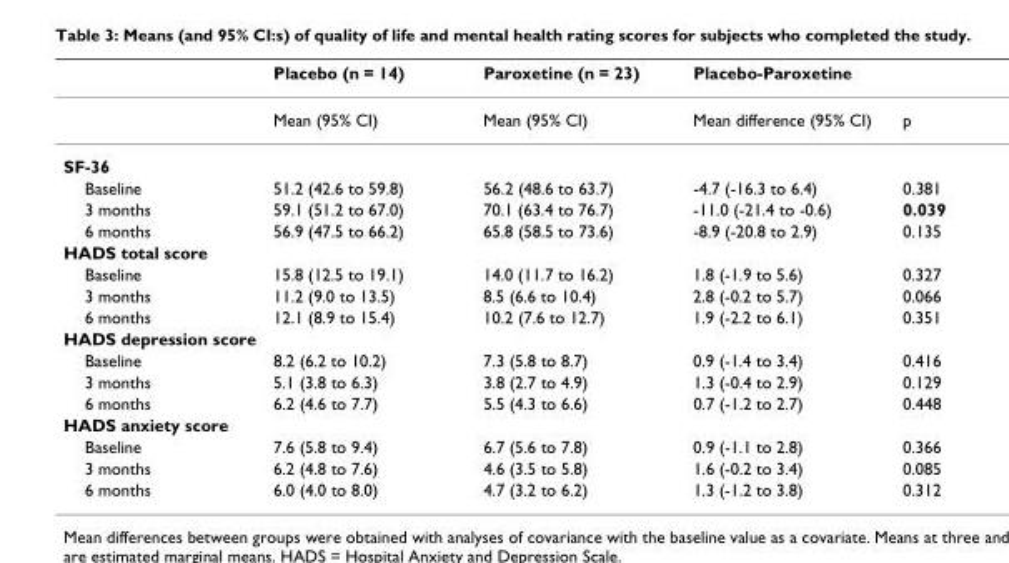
<table><thead><tr><td></td><td>Placebo (n = 14)</td><td>Paroxetine (n = 23)</td><td>Placebo-Paroxetine</td><td></td></tr></thead><tbody><tr><td></td><td>Mean (95% CI)</td><td>Mean (95% CI)</td><td>Mean difference (95% CI)</td><td>p</td></tr><tr><td colspan="5">SF-36</td></tr><tr><td>Baseline</td><td>51.2 (42.6 to 59.8)</td><td>56.2 (48.6 to 63.7)</td><td>-4.7 (-16.3 to 6.4)</td><td>0.381</td></tr><tr><td>3 months</td><td>59.1 (51.2 to 67.0)</td><td>70.1 (63.4 to 76.7)</td><td>-11.0 (-21.4 to -0.6)</td><td>0.039</td></tr><tr><td>6 months</td><td>56.9 (47.5 to 66.2)</td><td>65.8 (58.5 to 73.6)</td><td>-8.9 (-20.8 to 2.9)</td><td>0.135</td></tr><tr><td colspan="5">HADS total score</td></tr><tr><td>Baseline</td><td>15.8 (12.5 to 19.1)</td><td>14.0 (11.7 to 16.2)</td><td>1.8 (-1.9 to 5.6)</td><td>0.327</td></tr><tr><td>3 months</td><td>11.2 (9.0 to 13.5)</td><td>8.5 (6.6 to 10.4)</td><td>2.8 (-0.2 to 5.7)</td><td>0.066</td></tr><tr><td>6 months</td><td>12.1 (8.9 to 15.4)</td><td>10.2 (7.6 to 12.7)</td><td>1.9 (-2.2 to 6.1)</td><td>0.351</td></tr><tr><td colspan="5">HADS depression score</td></tr><tr><td>Baseline</td><td>8.2 (6.2 to 10.2)</td><td>7.3 (5.8 to 8.7)</td><td>0.9 (-1.4 to 3.4)</td><td>0.416</td></tr><tr><td>3 months</td><td>5.1 (3.8 to 6.3)</td><td>3.8 (2.7 to 4.9)</td><td>1.3 (-0.4 to 2.9)</td><td>0.129</td></tr><tr><td>6 months</td><td>6.2 (4.6 to 7.7)</td><td>5.5 (4.3 to 6.6)</td><td>0.7 (-1.2 to 2.7)</td><td>0.448</td></tr><tr><td colspan="5">HADS anxiety score</td></tr><tr><td>Baseline</td><td>7.6 (5.8 to 9.4)</td><td>6.7 (5.6 to 7.8)</td><td>0.9 (-1.1 to 2.8)</td><td>0.366</td></tr><tr><td>3 months</td><td>6.2 (4.8 to 7.6)</td><td>4.6 (3.5 to 5.8)</td><td>1.6 (-0.2 to 3.4)</td><td>0.085</td></tr><tr><td>6 months</td><td>6.0 (4.0 to 8.0)</td><td>4.7 (3.2 to 6.2)</td><td>1.3 (-1.2 to 3.8)</td><td>0.312</td></tr></tbody></table>